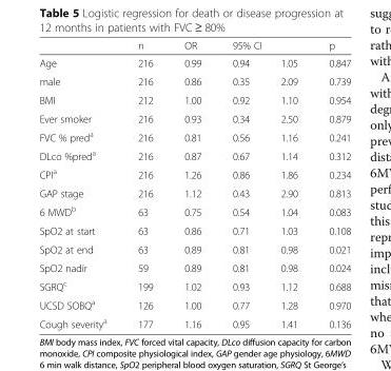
<table><thead><tr><td rowspan="2">Age</td><td rowspan="2">n 216</td><td rowspan="2">OR 0.99</td><td colspan="2">95% CI</td><td rowspan="2">p 0.847</td></tr><tr><td>0.94</td><td>1.05</td></tr></thead><tbody><tr><td>male</td><td>216</td><td>0.86</td><td>0.35</td><td>2.09</td><td>0.739</td></tr><tr><td>BMI</td><td>212</td><td>1.00</td><td>0.92</td><td>1.10</td><td>0.954</td></tr><tr><td>Ever smoker</td><td>216</td><td>0.93</td><td>0.34</td><td>2.50</td><td>0.879</td></tr><tr><td>FVC % pred<sup>a</sup></td><td>216</td><td>0.81</td><td>0.56</td><td>1.16</td><td>0.241</td></tr><tr><td>DLco %pred<sup>a</sup></td><td>216</td><td>0.87</td><td>0.67</td><td>1.14</td><td>0.312</td></tr><tr><td>CPI<sup>a</sup></td><td>216</td><td>1.26</td><td>0.86</td><td>1.86</td><td>0.234</td></tr><tr><td>GAP stage</td><td>216</td><td>1.12</td><td>0.43</td><td>2.90</td><td>0.813</td></tr><tr><td>6 MWD<sup>b</sup></td><td>63</td><td>0.75</td><td>0.54</td><td>1.04</td><td>0.083</td></tr><tr><td>SpO2 at start</td><td>63</td><td>0.86</td><td>0.71</td><td>1.03</td><td>0.108</td></tr><tr><td>SpO2 at end</td><td>63</td><td>0.89</td><td>0.81</td><td>0.98</td><td>0.021</td></tr><tr><td>SpO2 nadir</td><td>59</td><td>0.89</td><td>0.81</td><td>0.98</td><td>0.024</td></tr><tr><td>SGRQ<sup>c</sup></td><td>199</td><td>1.02</td><td>0.93</td><td>1.12</td><td>0.688</td></tr><tr><td>UCSD SOBQ<sup>a</sup></td><td>126</td><td>1.00</td><td>0.77</td><td>1.28</td><td>0.970</td></tr><tr><td>Cough severity<sup>a</sup></td><td>177</td><td>1.16</td><td>0.95</td><td>1.41</td><td>0.136</td></tr></tbody></table>